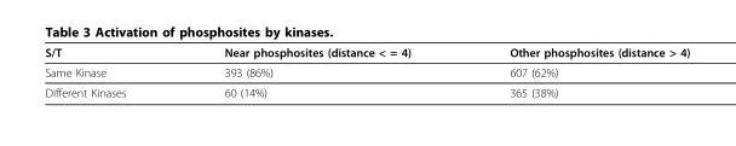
<table><thead><tr><td>S/T</td><td>Near phosphosites (distance &lt; = 4)</td><td>Other phosphosites (distance &gt; 4)</td></tr></thead><tbody><tr><td>Same Kinase</td><td>393 (86%)</td><td>607 (62%)</td></tr><tr><td>Different Kinases</td><td>60 (14%)</td><td>365 (38%)</td></tr></tbody></table>